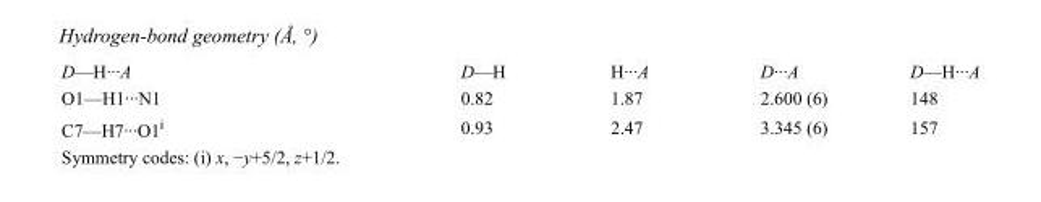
<table><tbody><tr><td>D—H···A</td><td>D—H</td><td>H···A</td><td>D···A</td><td>D—H···A</td></tr><tr><td>O1—H1···N1</td><td>0.82</td><td>1.87</td><td>2.600 (6)</td><td>148</td></tr><tr><td>C7—H7···O1<sup>i</sup></td><td>0.93</td><td>2.47</td><td>3.345 (6)</td><td>157</td></tr></tbody></table>